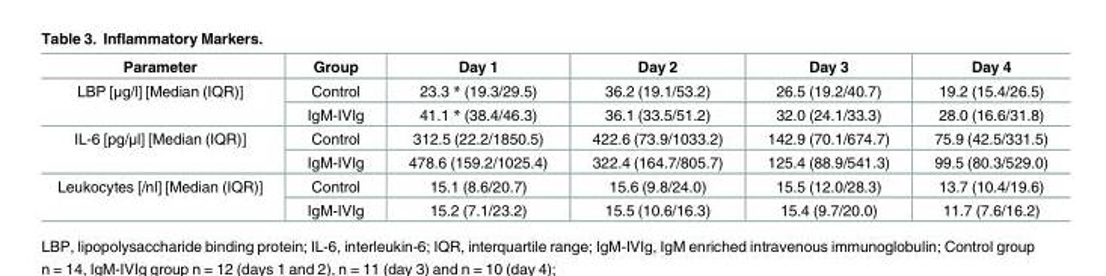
<table><thead><tr><td>Parameter</td><td>Group</td><td>Day 1</td><td>Day 2</td><td>Day 3</td><td>Day 4</td></tr></thead><tbody><tr><td rowspan="2">LBP [μg/l] [Median (IQR)]</td><td>Control</td><td>23.3 * (19.3/29.5)</td><td>36.2 (19.1/53.2)</td><td>26.5 (19.2/40.7)</td><td>19.2 (15.4/26.5)</td></tr><tr><td>IgM-IVIg</td><td>41.1 * (38.4/46.3)</td><td>36.1 (33.5/51.2)</td><td>32.0 (24.1/33.3)</td><td>28.0 (16.6/31.8)</td></tr><tr><td rowspan="2">IL-6 [pg/μl] [Median (IQR)]</td><td>Control</td><td>312.5 (22.2/1850.5)</td><td>422.6 (73.9/1033.2)</td><td>142.9 (70.1/674.7)</td><td>75.9 (42.5/331.5)</td></tr><tr><td>IgM-IVIg</td><td>478.6 (159.2/1025.4)</td><td>322.4 (164.7/805.7)</td><td>125.4 (88.9/541.3)</td><td>99.5 (80.3/529.0)</td></tr><tr><td rowspan="2">Leukocytes [/nl] [Median (IQR)]</td><td>Control</td><td>15.1 (8.6/20.7)</td><td>15.6 (9.8/24.0)</td><td>15.5 (12.0/28.3)</td><td>13.7 (10.4/19.6)</td></tr><tr><td>IgM-IVIg</td><td>15.2 (7.1/23.2)</td><td>15.5 (10.6/16.3)</td><td>15.4 (9.7/20.0)</td><td>11.7 (7.6/16.2)</td></tr></tbody></table>